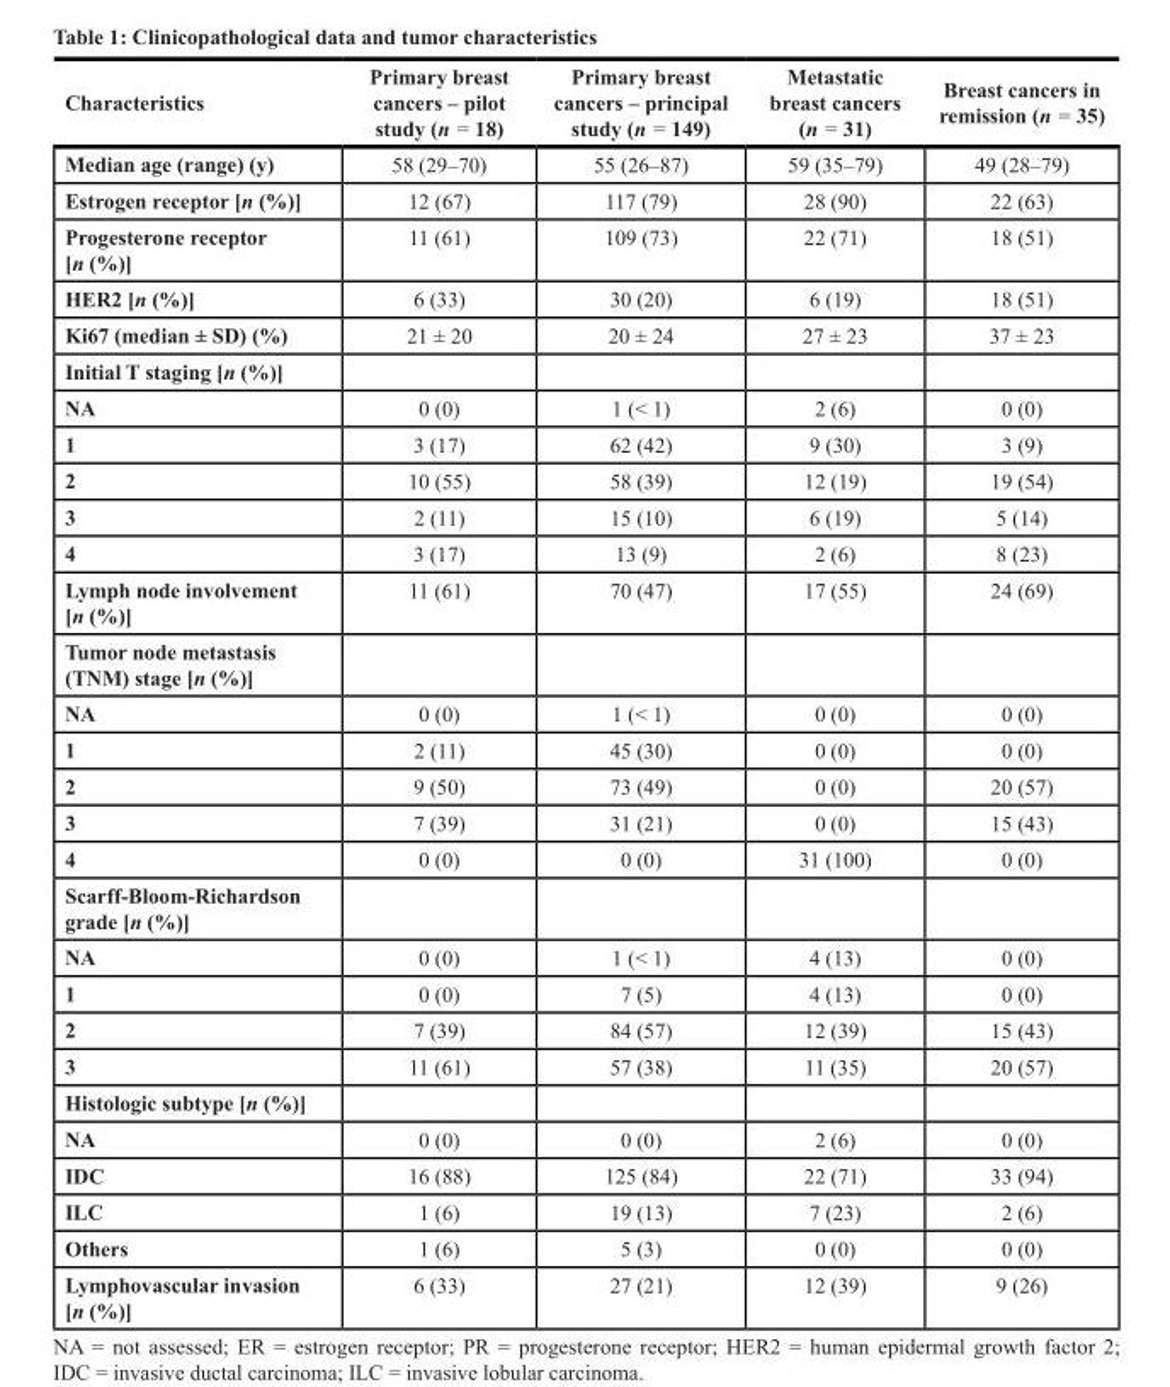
<table><thead><tr><td>Characteristics</td><td>Primary breast cancers – pilot study (n = 18)</td><td>Primary breast cancers – principal study (n = 149)</td><td>Metastatic breast cancers (n = 31)</td><td>Breast cancers in remission (n = 35)</td></tr></thead><tbody><tr><td>Median age (range) (y)</td><td>58 (29–70)</td><td>55 (26–87)</td><td>59 (35–79)</td><td>49 (28–79)</td></tr><tr><td>Estrogen receptor [n (%)]</td><td>12 (67)</td><td>117 (79)</td><td>28 (90)</td><td>22 (63)</td></tr><tr><td>Progesterone receptor [n (%)]</td><td>11 (61)</td><td>109 (73)</td><td>22 (71)</td><td>18 (51)</td></tr><tr><td>HER2 [n (%)]</td><td>6 (33)</td><td>30 (20)</td><td>6 (19)</td><td>18 (51)</td></tr><tr><td>Ki67 (median ± SD) (%)</td><td>21 ± 20</td><td>20 ± 24</td><td>27 ± 23</td><td>37 ± 23</td></tr><tr><td colspan="5">Initial T staging [n (%)]</td></tr><tr><td>NA</td><td>0 (0)</td><td>1 (&lt; 1)</td><td>2 (6)</td><td>0 (0)</td></tr><tr><td>1</td><td>3 (17)</td><td>62 (42)</td><td>9 (30)</td><td>3 (9)</td></tr><tr><td>2</td><td>10 (55)</td><td>58 (39)</td><td>12 (19)</td><td>19 (54)</td></tr><tr><td>3</td><td>2 (11)</td><td>15 (10)</td><td>6 (19)</td><td>5 (14)</td></tr><tr><td>4</td><td>3 (17)</td><td>13 (9)</td><td>2 (6)</td><td>8 (23)</td></tr><tr><td>Lymph node involvement [n (%)]</td><td>11 (61)</td><td>70 (47)</td><td>17 (55)</td><td>24 (69)</td></tr><tr><td colspan="5">Tumor node metastasis (TNM) stage [n (%)]</td></tr><tr><td>NA</td><td>0 (0)</td><td>1 (&lt; 1)</td><td>0 (0)</td><td>0 (0)</td></tr><tr><td>1</td><td>2 (11)</td><td>45 (30)</td><td>0 (0)</td><td>0 (0)</td></tr><tr><td>2</td><td>9 (50)</td><td>73 (49)</td><td>0 (0)</td><td>20 (57)</td></tr><tr><td>3</td><td>7 (39)</td><td>31 (21)</td><td>0 (0)</td><td>15 (43)</td></tr><tr><td>4</td><td>0 (0)</td><td>0 (0)</td><td>31 (100)</td><td>0 (0)</td></tr><tr><td colspan="5">Scarff-Bloom-Richardson grade [n (%)]</td></tr><tr><td>NA</td><td>0 (0)</td><td>1 (&lt; 1)</td><td>4 (13)</td><td>0 (0)</td></tr><tr><td>1</td><td>0 (0)</td><td>7 (5)</td><td>4 (13)</td><td>0 (0)</td></tr><tr><td>2</td><td>7 (39)</td><td>84 (57)</td><td>12 (39)</td><td>15 (43)</td></tr><tr><td>3</td><td>11 (61)</td><td>57 (38)</td><td>11 (35)</td><td>20 (57)</td></tr><tr><td colspan="5">Histologic subtype [n (%)]</td></tr><tr><td>NA</td><td>0 (0)</td><td>0 (0)</td><td>2 (6)</td><td>0 (0)</td></tr><tr><td>IDC</td><td>16 (88)</td><td>125 (84)</td><td>22 (71)</td><td>33 (94)</td></tr><tr><td>ILC</td><td>1 (6)</td><td>19 (13)</td><td>7 (23)</td><td>2 (6)</td></tr><tr><td>Others</td><td>1 (6)</td><td>5 (3)</td><td>0 (0)</td><td>0 (0)</td></tr><tr><td>Lymphovascular invasion [n (%)]</td><td>6 (33)</td><td>27 (21)</td><td>12 (39)</td><td>9 (26)</td></tr></tbody></table>